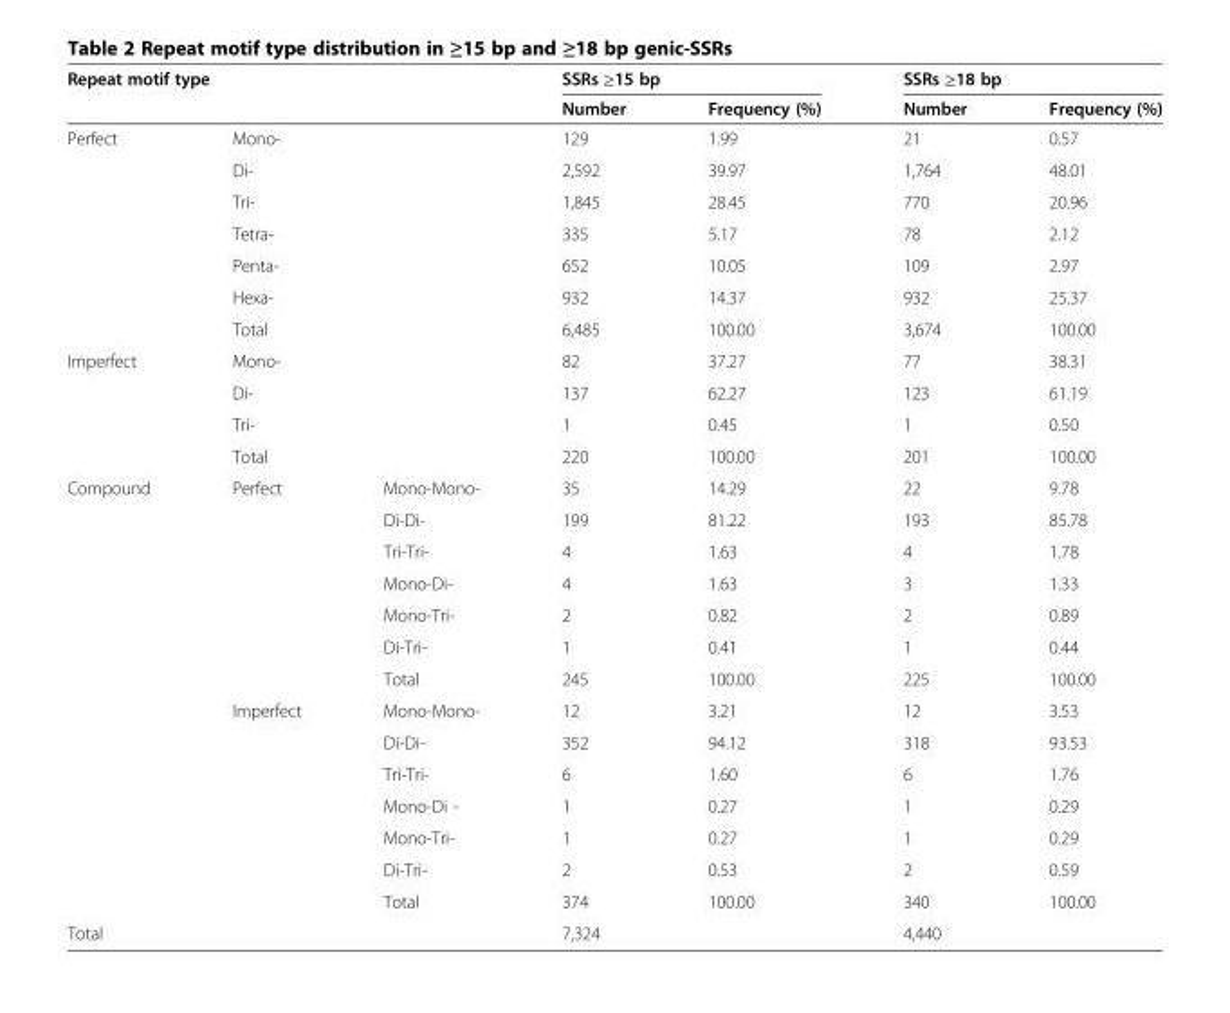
<table><thead><tr><td rowspan="2" colspan="3">Repeat motif type</td><td colspan="2">SSRs ≥15 bp</td><td colspan="2">SSRs ≥18 bp</td></tr><tr><td>Number</td><td>Frequency (%)</td><td>Number</td><td>Frequency (%)</td></tr></thead><tbody><tr><td rowspan="7">Perfect</td><td colspan="2">Mono-</td><td>129</td><td>1.99</td><td>21</td><td>0.57</td></tr><tr><td colspan="2">Di-</td><td>2,592</td><td>39.97</td><td>1,764</td><td>48.01</td></tr><tr><td colspan="2">Tri-</td><td>1,845</td><td>28.45</td><td>770</td><td>20.96</td></tr><tr><td colspan="2">Tetra-</td><td>335</td><td>5.17</td><td>78</td><td>2.12</td></tr><tr><td colspan="2">Penta-</td><td>652</td><td>10.05</td><td>109</td><td>2.97</td></tr><tr><td colspan="2">Hexa-</td><td>932</td><td>14.37</td><td>932</td><td>25.37</td></tr><tr><td colspan="2">Total</td><td>6,485</td><td>100.00</td><td>3,674</td><td>100.00</td></tr><tr><td rowspan="4">Imperfect</td><td colspan="2">Mono-</td><td>82</td><td>37.27</td><td>77</td><td>38.31</td></tr><tr><td colspan="2">Di-</td><td>137</td><td>62.27</td><td>123</td><td>61.19</td></tr><tr><td colspan="2">Tri-</td><td>1</td><td>0.45</td><td>1</td><td>0.50</td></tr><tr><td colspan="2">Total</td><td>220</td><td>100.00</td><td>201</td><td>100.00</td></tr><tr><td rowspan="14">Compound</td><td rowspan="7">Perfect</td><td>Mono-Mono-</td><td>35</td><td>14.29</td><td>22</td><td>9.78</td></tr><tr><td>Di-Di-</td><td>199</td><td>81.22</td><td>193</td><td>85.78</td></tr><tr><td>Tri-Tri-</td><td>4</td><td>1.63</td><td>4</td><td>1.78</td></tr><tr><td>Mono-Di-</td><td>4</td><td>1.63</td><td>3</td><td>1.33</td></tr><tr><td>Mono-Tri-</td><td>2</td><td>0.82</td><td>2</td><td>0.89</td></tr><tr><td>Di-Tri-</td><td>1</td><td>0.41</td><td>1</td><td>0.44</td></tr><tr><td>Total</td><td>245</td><td>100.00</td><td>225</td><td>100.00</td></tr><tr><td rowspan="7">Imperfect</td><td>Mono-Mono-</td><td>12</td><td>3.21</td><td>12</td><td>3.53</td></tr><tr><td>Di-Di-</td><td>352</td><td>94.12</td><td>318</td><td>93.53</td></tr><tr><td>Tri-Tri-</td><td>6</td><td>1.60</td><td>6</td><td>1.76</td></tr><tr><td>Mono-Di -</td><td>1</td><td>0.27</td><td>1</td><td>0.29</td></tr><tr><td>Mono-Tri-</td><td>1</td><td>0.27</td><td>1</td><td>0.29</td></tr><tr><td>Di-Tri-</td><td>2</td><td>0.53</td><td>2</td><td>0.59</td></tr><tr><td>Total</td><td>374</td><td>100.00</td><td>340</td><td>100.00</td></tr><tr><td>Total</td><td colspan="2"></td><td>7,324</td><td></td><td>4,440</td><td></td></tr></tbody></table>